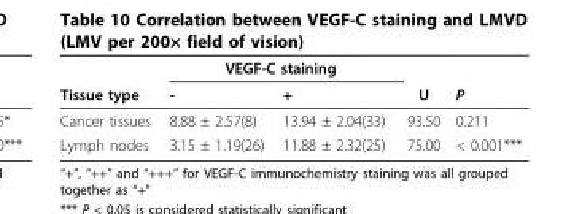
<table><thead><tr><td rowspan="2">Tissue type</td><td colspan="2">VEGF-C staining</td><td rowspan="2">U</td><td rowspan="2">P</td></tr><tr><td>-</td><td>+</td></tr></thead><tbody><tr><td>Cancer tissues</td><td>8.88 ± 2.57(8)</td><td>13.94 ± 2.04(33)</td><td>93.50</td><td>0.211</td></tr><tr><td>Lymph nodes</td><td>3.15 ± 1.19(26)</td><td>11.88 ± 2.32(25)</td><td>75.00</td><td>&lt; 0.001***</td></tr></tbody></table>